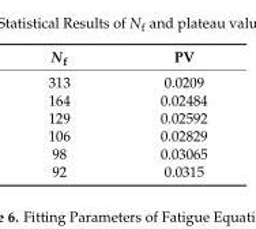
<table><thead><tr><td>N<sub>f</sub></td><td>PV</td></tr></thead><tbody><tr><td>313</td><td>0.0209</td></tr><tr><td>164</td><td>0.02484</td></tr><tr><td>129</td><td>0.02592</td></tr><tr><td>106</td><td>0.02829</td></tr><tr><td>98</td><td>0.03065</td></tr><tr><td>92</td><td>0.0315</td></tr></tbody></table>